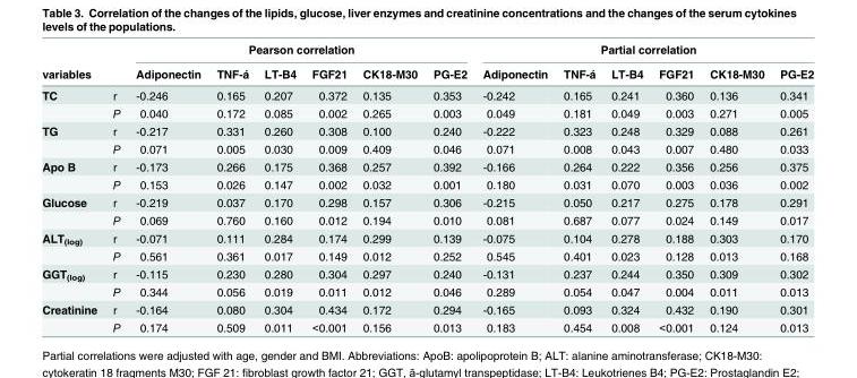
<table><thead><tr><td rowspan="2">variables</td><td rowspan="2"></td><td colspan="6">Pearson correlation</td><td colspan="6">Partial correlation</td></tr><tr><td>Adiponectin</td><td>TNF-á</td><td>LT-B4</td><td>FGF21</td><td>CK18-M30</td><td>PG-E2</td><td>Adiponectin</td><td>TNF-á</td><td>LT-B4</td><td>FGF21</td><td>CK18-M30</td><td>PG-E2</td></tr></thead><tbody><tr><td rowspan="2">TC</td><td>r</td><td>-0.246</td><td>0.165</td><td>0.207</td><td>0.372</td><td>0.135</td><td>0.353</td><td>-0.242</td><td>0.165</td><td>0.241</td><td>0.360</td><td>0.136</td><td>0.341</td></tr><tr><td>P</td><td>0.040</td><td>0.172</td><td>0.085</td><td>0.002</td><td>0.265</td><td>0.003</td><td>0.049</td><td>0.181</td><td>0.049</td><td>0.003</td><td>0.271</td><td>0.005</td></tr><tr><td rowspan="2">TG</td><td>r</td><td>-0.217</td><td>0.331</td><td>0.260</td><td>0.308</td><td>0.100</td><td>0.240</td><td>-0.222</td><td>0.323</td><td>0.248</td><td>0.329</td><td>0.088</td><td>0.261</td></tr><tr><td>P</td><td>0.071</td><td>0.005</td><td>0.030</td><td>0.009</td><td>0.409</td><td>0.046</td><td>0.071</td><td>0.008</td><td>0.043</td><td>0.007</td><td>0.480</td><td>0.033</td></tr><tr><td rowspan="2">Apo B</td><td>r</td><td>-0.173</td><td>0.266</td><td>0.175</td><td>0.368</td><td>0.257</td><td>0.392</td><td>-0.166</td><td>0.264</td><td>0.222</td><td>0.356</td><td>0.256</td><td>0.375</td></tr><tr><td>P</td><td>0.153</td><td>0.026</td><td>0.147</td><td>0.002</td><td>0.032</td><td>0.001</td><td>0.180</td><td>0.031</td><td>0.070</td><td>0.003</td><td>0.036</td><td>0.002</td></tr><tr><td rowspan="2">Glucose</td><td>r</td><td>-0.219</td><td>0.037</td><td>0.170</td><td>0.298</td><td>0.157</td><td>0.306</td><td>-0.215</td><td>0.050</td><td>0.217</td><td>0.275</td><td>0.178</td><td>0.291</td></tr><tr><td>P</td><td>0.069</td><td>0.760</td><td>0.160</td><td>0.012</td><td>0.194</td><td>0.010</td><td>0.081</td><td>0.687</td><td>0.077</td><td>0.024</td><td>0.149</td><td>0.017</td></tr><tr><td rowspan="2">ALT<sub>(log)</sub></td><td>r</td><td>-0.071</td><td>0.111</td><td>0.284</td><td>0.174</td><td>0.299</td><td>0.139</td><td>-0.075</td><td>0.104</td><td>0.278</td><td>0.188</td><td>0.303</td><td>0.170</td></tr><tr><td>P</td><td>0.561</td><td>0.361</td><td>0.017</td><td>0.149</td><td>0.012</td><td>0.252</td><td>0.545</td><td>0.401</td><td>0.023</td><td>0.128</td><td>0.013</td><td>0.168</td></tr><tr><td rowspan="2">GGT<sub>(log)</sub></td><td>r</td><td>-0.115</td><td>0.230</td><td>0.280</td><td>0.304</td><td>0.297</td><td>0.240</td><td>-0.131</td><td>0.237</td><td>0.244</td><td>0.350</td><td>0.309</td><td>0.302</td></tr><tr><td>P</td><td>0.344</td><td>0.056</td><td>0.019</td><td>0.011</td><td>0.012</td><td>0.046</td><td>0.289</td><td>0.054</td><td>0.047</td><td>0.004</td><td>0.011</td><td>0.013</td></tr><tr><td rowspan="2">Creatinine</td><td>r</td><td>-0.164</td><td>0.080</td><td>0.304</td><td>0.434</td><td>0.172</td><td>0.294</td><td>-0.165</td><td>0.093</td><td>0.324</td><td>0.432</td><td>0.190</td><td>0.301</td></tr><tr><td>P</td><td>0.174</td><td>0.509</td><td>0.011</td><td>&lt;0.001</td><td>0.156</td><td>0.013</td><td>0.183</td><td>0.454</td><td>0.008</td><td>&lt;0.001</td><td>0.124</td><td>0.013</td></tr></tbody></table>